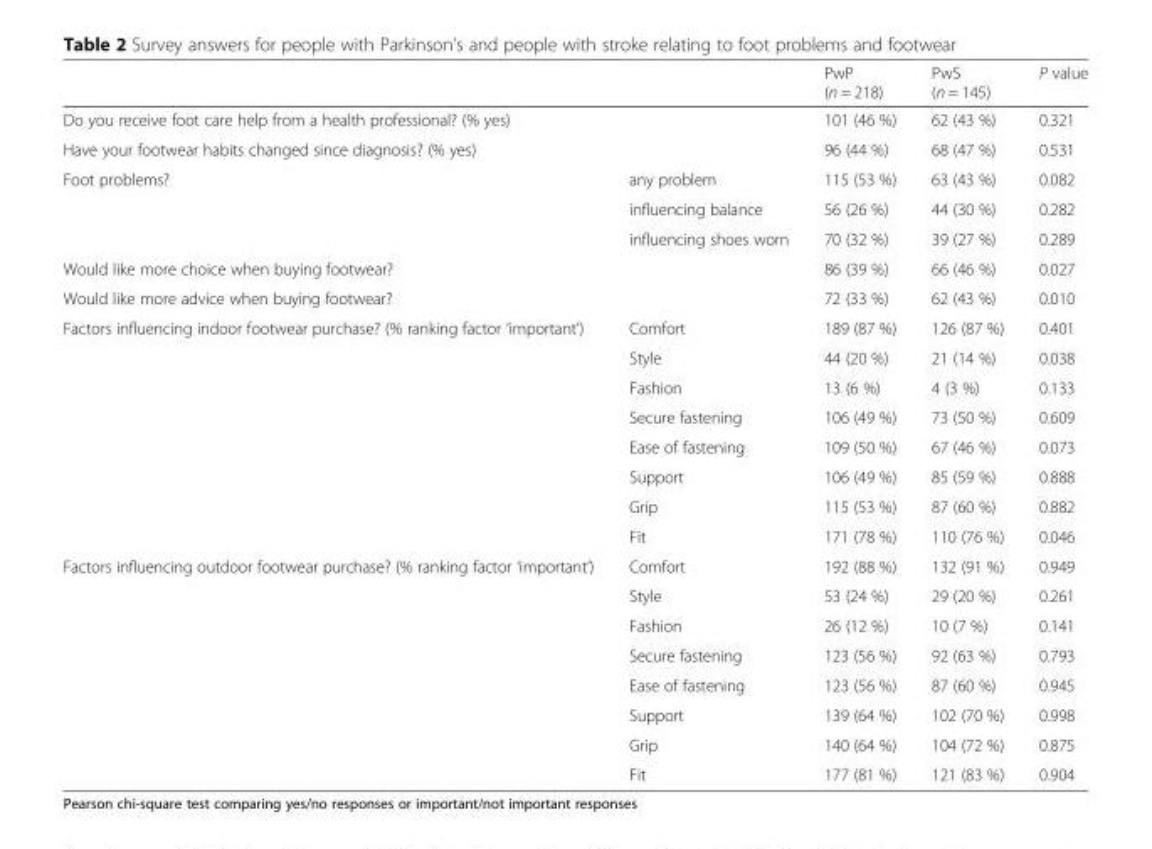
<table><thead><tr><td></td><td></td><td>PwP (n = 218)</td><td>PwS (n = 145)</td><td>P value</td></tr></thead><tbody><tr><td colspan="2">Do you receive foot care help from a health professional? (% yes)</td><td>101 (46 %)</td><td>62 (43 %)</td><td>0.321</td></tr><tr><td colspan="2">Have your footwear habits changed since diagnosis? (% yes)</td><td>96 (44 %)</td><td>68 (47 %)</td><td>0.531</td></tr><tr><td rowspan="3">Foot problems?</td><td>any problem</td><td>115 (53 %)</td><td>63 (43 %)</td><td>0.082</td></tr><tr><td>influencing balance</td><td>56 (26 %)</td><td>44 (30 %)</td><td>0.282</td></tr><tr><td>influencing shoes worn</td><td>70 (32 %)</td><td>39 (27 %)</td><td>0.289</td></tr><tr><td colspan="2">Would like more choice when buying footwear?</td><td>86 (39 %)</td><td>66 (46 %)</td><td>0.027</td></tr><tr><td colspan="2">Would like more advice when buying footwear?</td><td>72 (33 %)</td><td>62 (43 %)</td><td>0.010</td></tr><tr><td rowspan="8">Factors influencing indoor footwear purchase? (% ranking factor ‘important’)</td><td>Comfort</td><td>189 (87 %)</td><td>126 (87 %)</td><td>0.401</td></tr><tr><td>Style</td><td>44 (20 %)</td><td>21 (14 %)</td><td>0.038</td></tr><tr><td>Fashion</td><td>13 (6 %)</td><td>4 (3 %)</td><td>0.133</td></tr><tr><td>Secure fastening</td><td>106 (49 %)</td><td>73 (50 %)</td><td>0.609</td></tr><tr><td>Ease of fastening</td><td>109 (50 %)</td><td>67 (46 %)</td><td>0.073</td></tr><tr><td>Support</td><td>106 (49 %)</td><td>85 (59 %)</td><td>0.888</td></tr><tr><td>Grip</td><td>115 (53 %)</td><td>87 (60 %)</td><td>0.882</td></tr><tr><td>Fit</td><td>171 (78 %)</td><td>110 (76 %)</td><td>0.046</td></tr><tr><td rowspan="8">Factors influencing outdoor footwear purchase? (% ranking factor ‘important’)</td><td>Comfort</td><td>192 (88 %)</td><td>132 (91 %)</td><td>0.949</td></tr><tr><td>Style</td><td>53 (24 %)</td><td>29 (20 %)</td><td>0.261</td></tr><tr><td>Fashion</td><td>26 (12 %)</td><td>10 (7 %)</td><td>0.141</td></tr><tr><td>Secure fastening</td><td>123 (56 %)</td><td>92 (63 %)</td><td>0.793</td></tr><tr><td>Ease of fastening</td><td>123 (56 %)</td><td>87 (60 %)</td><td>0.945</td></tr><tr><td>Support</td><td>139 (64 %)</td><td>102 (70 %)</td><td>0.998</td></tr><tr><td>Grip</td><td>140 (64 %)</td><td>104 (72 %)</td><td>0.875</td></tr><tr><td>Fit</td><td>177 (81 %)</td><td>121 (83 %)</td><td>0.904</td></tr></tbody></table>